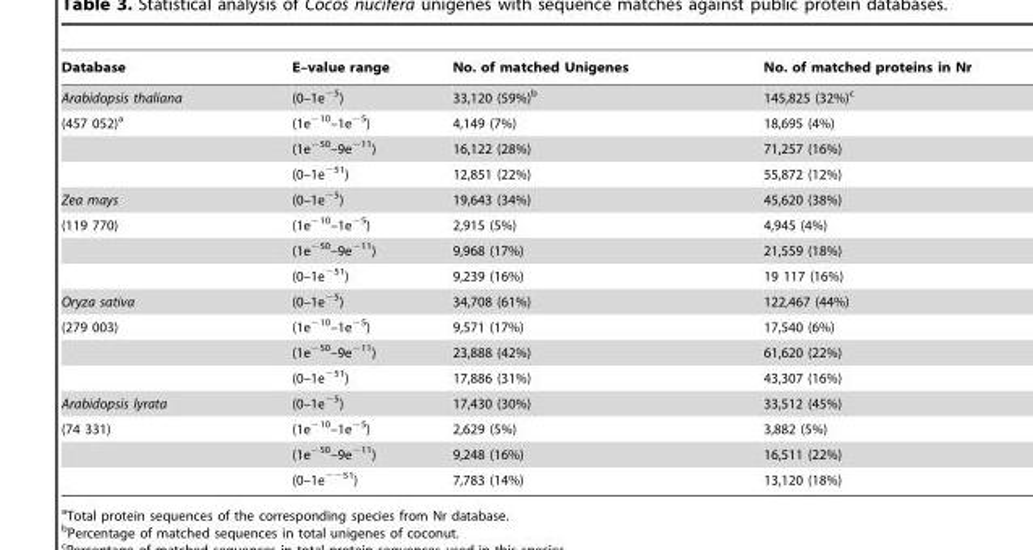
<table><thead><tr><td>Database</td><td>E–value range</td><td>No. of matched Unigenes</td><td>No. of matched proteins in Nr</td></tr></thead><tbody><tr><td>Arabidopsis thaliana</td><td>(0–1e<sup>−5</sup>)</td><td>33,120 (59%)<sup>b</sup></td><td>145,825 (32%)<sup>c</sup></td></tr><tr><td rowspan="3">(457 052)<sup>a</sup></td><td>(1e<sup>−10</sup>–1e<sup>−5</sup>)</td><td>4,149 (7%)</td><td>18,695 (4%)</td></tr><tr><td>(1e<sup>−50</sup>–9e<sup>−11</sup>)</td><td>16,122 (28%)</td><td>71,257 (16%)</td></tr><tr><td>(0–1e<sup>−51</sup>)</td><td>12,851 (22%)</td><td>55,872 (12%)</td></tr><tr><td>Zea mays</td><td>(0–1e<sup>−5</sup>)</td><td>19,643 (34%)</td><td>45,620 (38%)</td></tr><tr><td rowspan="3">(119 770)</td><td>(1e<sup>−10</sup>–1e<sup>−5</sup>)</td><td>2,915 (5%)</td><td>4,945 (4%)</td></tr><tr><td>(1e<sup>−50</sup>–9e<sup>−11</sup>)</td><td>9,968 (17%)</td><td>21,559 (18%)</td></tr><tr><td>(0–1e<sup>−51</sup>)</td><td>9,239 (16%)</td><td>19 117 (16%)</td></tr><tr><td>Oryza sativa</td><td>(0–1e<sup>−5</sup>)</td><td>34,708 (61%)</td><td>122,467 (44%)</td></tr><tr><td rowspan="3">(279 003)</td><td>(1e<sup>−10</sup>–1e<sup>−5</sup>)</td><td>9,571 (17%)</td><td>17,540 (6%)</td></tr><tr><td>(1e<sup>−50</sup>–9e<sup>−11</sup>)</td><td>23,888 (42%)</td><td>61,620 (22%)</td></tr><tr><td>(0–1e<sup>−51</sup>)</td><td>17,886 (31%)</td><td>43,307 (16%)</td></tr><tr><td>Arabidopsis lyrata</td><td>(0–1e<sup>−5</sup>)</td><td>17,430 (30%)</td><td>33,512 (45%)</td></tr><tr><td rowspan="3">(74 331)</td><td>(1e<sup>−10</sup>–1e<sup>−5</sup>)</td><td>2,629 (5%)</td><td>3,882 (5%)</td></tr><tr><td>(1e<sup>−50</sup>–9e<sup>−11</sup>)</td><td>9,248 (16%)</td><td>16,511 (22%)</td></tr><tr><td>(0–1e<sup>−−51</sup>)</td><td>7,783 (14%)</td><td>13,120 (18%)</td></tr></tbody></table>